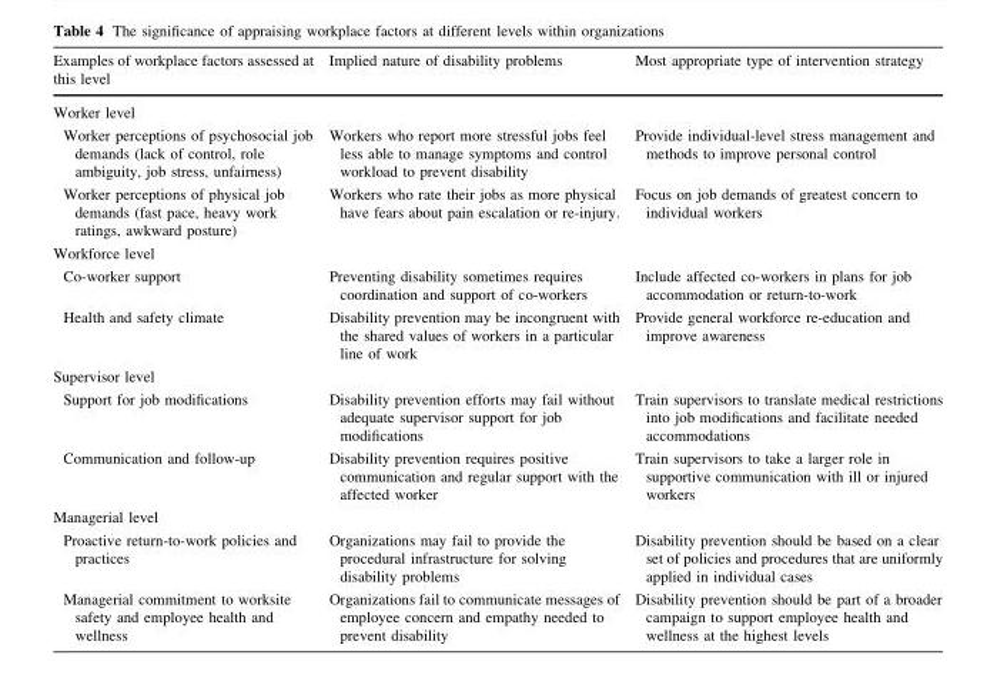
<table><thead><tr><td>Examples of workplace factors assessed at this level</td><td>Implied nature of disability problems</td><td>Most appropriate type of intervention strategy</td></tr></thead><tbody><tr><td colspan="3">Worker level</td></tr><tr><td>Worker perceptions of psychosocial job demands (lack of control, role ambiguity, job stress, unfairness)</td><td>Workers who report more stressful jobs feel less able to manage symptoms and control workload to prevent disability</td><td>Provide individual-level stress management and methods to improve personal control</td></tr><tr><td>Worker perceptions of physical job demands (fast pace, heavy work ratings, awkward posture)</td><td>Workers who rate their jobs as more physical have fears about pain escalation or re-injury.</td><td>Focus on job demands of greatest concern to individual workers</td></tr><tr><td colspan="3">Workforce level</td></tr><tr><td>Co-worker support</td><td>Preventing disability sometimes requires coordination and support of co-workers</td><td>Include affected co-workers in plans for job accommodation or return-to-work</td></tr><tr><td>Health and safety climate</td><td>Disability prevention may be incongruent with the shared values of workers in a particular line of work</td><td>Provide general workforce re-education and improve awareness</td></tr><tr><td colspan="3">Supervisor level</td></tr><tr><td>Support for job modifications</td><td>Disability prevention efforts may fail without adequate supervisor support for job modifications</td><td>Train supervisors to translate medical restrictions into job modifications and facilitate needed accommodations</td></tr><tr><td>Communication and follow-up</td><td>Disability prevention requires positive communication and regular support with the affected worker</td><td>Train supervisors to take a larger role in supportive communication with ill or injured workers</td></tr><tr><td colspan="3">Managerial level</td></tr><tr><td>Proactive return-to-work policies and practices</td><td>Organizations may fail to provide the procedural infrastructure for solving disability problems</td><td>Disability prevention should be based on a clear set of policies and procedures that are uniformly applied in individual cases</td></tr><tr><td>Managerial commitment to worksite safety and employee health and wellness</td><td>Organizations fail to communicate messages of employee concern and empathy needed to prevent disability</td><td>Disability prevention should be part of a broader campaign to support employee health and wellness at the highest levels</td></tr></tbody></table>